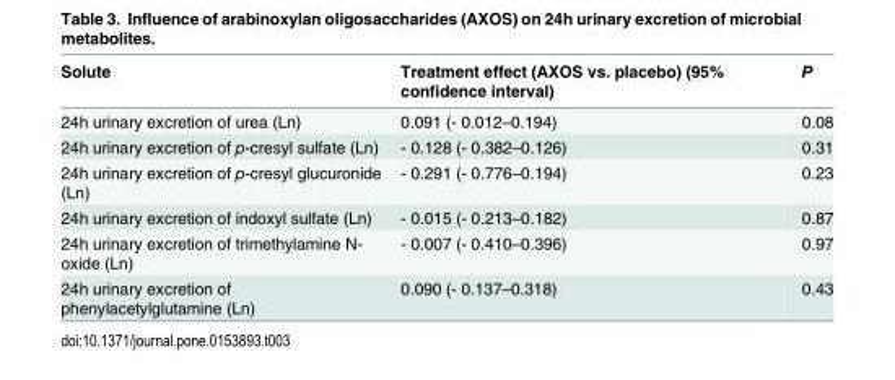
<table><thead><tr><td>Solute</td><td>Treatment effect (AXOS vs. placebo) (95% confidence interval)</td><td>P</td></tr></thead><tbody><tr><td>24h urinary excretion of urea (Ln)</td><td>0.091 (- 0.012–0.194)</td><td>0.08</td></tr><tr><td>24h urinary excretion of p-cresyl sulfate (Ln)</td><td>- 0.128 (- 0.382–0.126)</td><td>0.31</td></tr><tr><td>24h urinary excretion of p-cresyl glucuronide (Ln)</td><td>- 0.291 (- 0.776–0.194)</td><td>0.23</td></tr><tr><td>24h urinary excretion of indoxyl sulfate (Ln)</td><td>- 0.015 (- 0.213–0.182)</td><td>0.87</td></tr><tr><td>24h urinary excretion of trimethylamine N- oxide (Ln)</td><td>- 0.007 (- 0.410–0.396)</td><td>0.97</td></tr><tr><td>24h urinary excretion of phenylacetylglutamine (Ln)</td><td>0.090 (- 0.137–0.318)</td><td>0.43</td></tr></tbody></table>